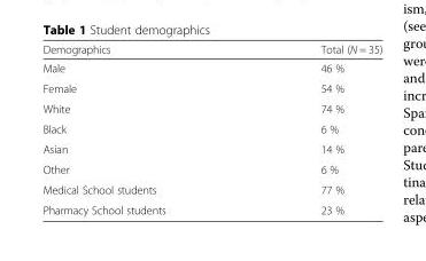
<table><thead><tr><td>Demographics</td><td>Total (N = 35)</td></tr></thead><tbody><tr><td>Male</td><td>46 %</td></tr><tr><td>Female</td><td>54 %</td></tr><tr><td>White</td><td>74 %</td></tr><tr><td>Black</td><td>6 %</td></tr><tr><td>Asian</td><td>14 %</td></tr><tr><td>Other</td><td>6 %</td></tr><tr><td>Medical School students</td><td>77 %</td></tr><tr><td>Pharmacy School students</td><td>23 %</td></tr></tbody></table>